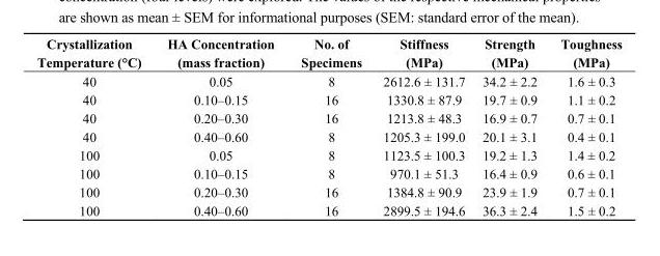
<table><thead><tr><td>Crystallization Temperature (°C)</td><td>HA Concentration (mass fraction)</td><td>No. of Specimens</td><td>Stiffness (MPa)</td><td>Strength (MPa)</td><td>Toughness (MPa)</td></tr></thead><tbody><tr><td>40</td><td>0.05</td><td>8</td><td>2612.6 ± 131.7</td><td>34.2 ± 2.2</td><td>1.6 ± 0.3</td></tr><tr><td>40</td><td>0.10–0.15</td><td>16</td><td>1330.8 ± 87.9</td><td>19.7 ± 0.9</td><td>1.1 ± 0.2</td></tr><tr><td>40</td><td>0.20–0.30</td><td>16</td><td>1213.8 ± 48.3</td><td>16.9 ± 0.7</td><td>0.7 ± 0.1</td></tr><tr><td>40</td><td>0.40–0.60</td><td>8</td><td>1205.3 ± 199.0</td><td>20.1 ± 3.1</td><td>0.4 ± 0.1</td></tr><tr><td>100</td><td>0.05</td><td>8</td><td>1123.5 ± 100.3</td><td>19.2 ± 1.3</td><td>1.4 ± 0.2</td></tr><tr><td>100</td><td>0.10–0.15</td><td>8</td><td>970.1 ± 51.3</td><td>16.4 ± 0.9</td><td>0.6 ± 0.1</td></tr><tr><td>100</td><td>0.20–0.30</td><td>16</td><td>1384.8 ± 90.9</td><td>23.9 ± 1.9</td><td>0.7 ± 0.1</td></tr><tr><td>100</td><td>0.40–0.60</td><td>16</td><td>2899.5 ± 194.6</td><td>36.3 ± 2.4</td><td>1.5 ± 0.2</td></tr></tbody></table>